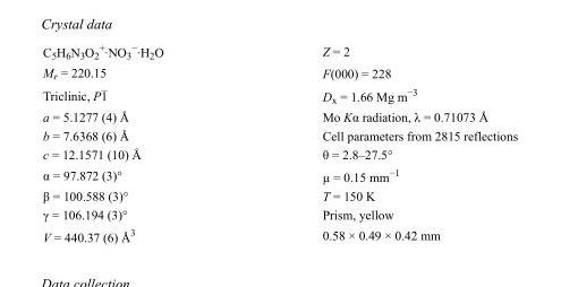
<table><tbody><tr><td>C<sub>5</sub>H<sub>6</sub>N<sub>3</sub>O<sub>2</sub> <sup>+</sup>·NO<sub>3</sub> <sup>−</sup>·H<sub>2</sub>O</td><td>Z = 2</td></tr><tr><td>M<sub>r</sub> = 220.15</td><td>F(000) = 228</td></tr><tr><td>Triclinic, P1</td><td>D<sub>x</sub> = 1.66 Mg m<sup>−3</sup></td></tr><tr><td>a = 5.1277 (4) Å</td><td>Mo Kα radiation, λ = 0.71073 Å</td></tr><tr><td>b = 7.6368 (6) Å</td><td>Cell parameters from 2815 reflections</td></tr><tr><td>c = 12.1571 (10) Å</td><td>θ = 2.8–27.5°</td></tr><tr><td>α = 97.872 (3)°</td><td>µ = 0.15 mm<sup>−1</sup></td></tr><tr><td>β = 100.588 (3)°</td><td>T = 150 K</td></tr><tr><td>γ = 106.194 (3)°</td><td>Prism, yellow</td></tr><tr><td>V = 440.37 (6) Å<sup>3</sup></td><td>0.58 × 0.49 × 0.42 mm</td></tr></tbody></table>